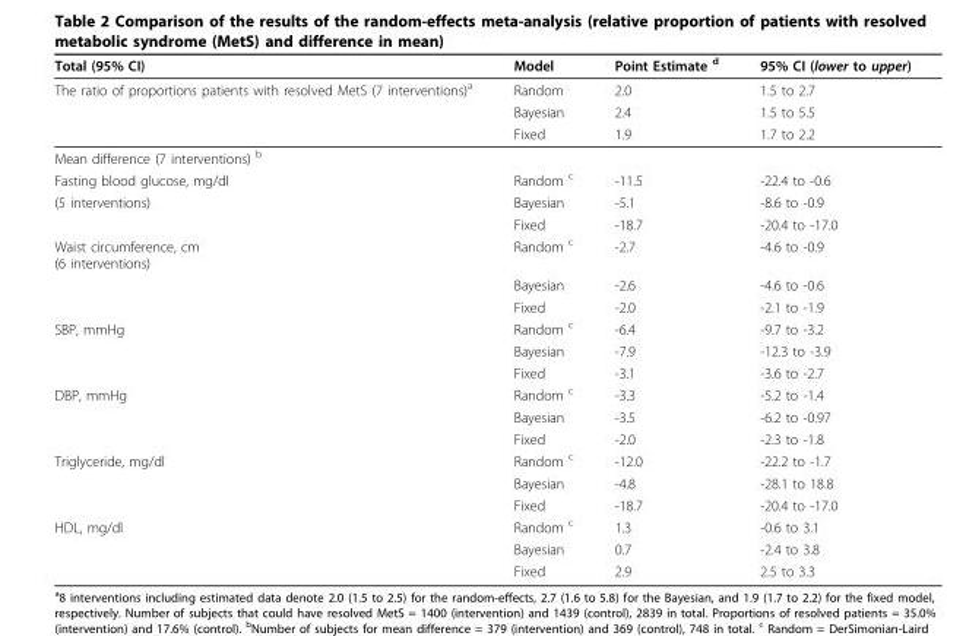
<table><thead><tr><td>Total (95% CI)</td><td>Model</td><td>Point Estimate <sup>d</sup></td><td>95% CI (lower to upper)</td></tr></thead><tbody><tr><td rowspan="3">The ratio of proportions patients with resolved MetS (7 interventions)<sup>a</sup></td><td>Random</td><td>2.0</td><td>1.5 to 2.7</td></tr><tr><td>Bayesian</td><td>2.4</td><td>1.5 to 5.5</td></tr><tr><td>Fixed</td><td>1.9</td><td>1.7 to 2.2</td></tr><tr><td colspan="4">Mean difference (7 interventions) <sup>b</sup></td></tr><tr><td>Fasting blood glucose, mg/dl</td><td>Random <sup>c</sup></td><td>-11.5</td><td>-22.4 to -0.6</td></tr><tr><td rowspan="2">(5 interventions)</td><td>Bayesian</td><td>-5.1</td><td>-8.6 to -0.9</td></tr><tr><td>Fixed</td><td>-18.7</td><td>-20.4 to -17.0</td></tr><tr><td rowspan="3">Waist circumference, cm (6 interventions)</td><td>Random <sup>c</sup></td><td>-2.7</td><td>-4.6 to -0.9</td></tr><tr><td>Bayesian</td><td>-2.6</td><td>-4.6 to -0.6</td></tr><tr><td>Fixed</td><td>-2.0</td><td>-2.1 to -1.9</td></tr><tr><td rowspan="3">SBP, mmHg</td><td>Random <sup>c</sup></td><td>-6.4</td><td>-9.7 to -3.2</td></tr><tr><td>Bayesian</td><td>-7.9</td><td>-12.3 to -3.9</td></tr><tr><td>Fixed</td><td>-3.1</td><td>-3.6 to -2.7</td></tr><tr><td rowspan="3">DBP, mmHg</td><td>Random <sup>c</sup></td><td>-3.3</td><td>-5.2 to -1.4</td></tr><tr><td>Bayesian</td><td>-3.5</td><td>-6.2 to -0.97</td></tr><tr><td>Fixed</td><td>-2.0</td><td>-2.3 to -1.8</td></tr><tr><td rowspan="3">Triglyceride, mg/dl</td><td>Random <sup>c</sup></td><td>-12.0</td><td>-22.2 to -1.7</td></tr><tr><td>Bayesian</td><td>-4.8</td><td>-28.1 to 18.8</td></tr><tr><td>Fixed</td><td>-18.7</td><td>-20.4 to -17.0</td></tr><tr><td rowspan="3">HDL, mg/dl</td><td>Random <sup>c</sup></td><td>1.3</td><td>-0.6 to 3.1</td></tr><tr><td>Bayesian</td><td>0.7</td><td>-2.4 to 3.8</td></tr><tr><td>Fixed</td><td>2.9</td><td>2.5 to 3.3</td></tr></tbody></table>